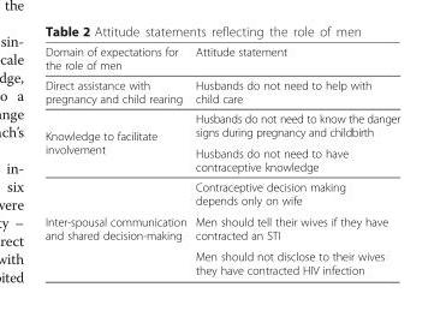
<table><thead><tr><td>Domain of expectations for the role of men</td><td>Attitude statement</td></tr></thead><tbody><tr><td>Direct assistance with pregnancy and child rearing</td><td>Husbands do not need to help with child care</td></tr><tr><td rowspan="2">Knowledge to facilitate involvement</td><td>Husbands do not need to know the danger signs during pregnancy and childbirth</td></tr><tr><td>Husbands do not need to have contraceptive knowledge</td></tr><tr><td rowspan="3">Inter-spousal communication and shared decision-making</td><td>Contraceptive decision making depends only on wife</td></tr><tr><td>Men should tell their wives if they have contracted an STI</td></tr><tr><td>Men should not disclose to their wives they have contracted HIV infection</td></tr></tbody></table>